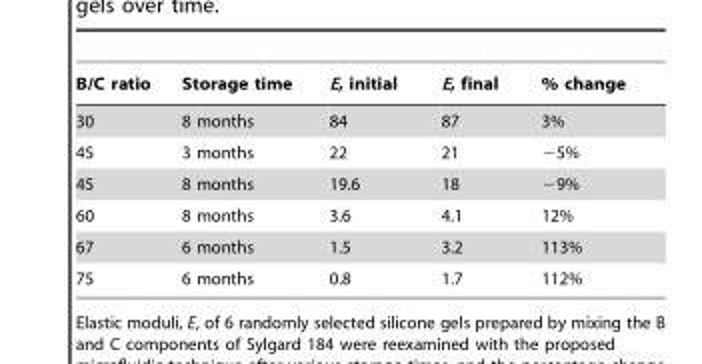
<table><thead><tr><td>B/C ratio</td><td>Storage time</td><td>E, initial</td><td>E, final</td><td>% change</td></tr></thead><tbody><tr><td>30</td><td>8 months</td><td>84</td><td>87</td><td>3%</td></tr><tr><td>45</td><td>3 months</td><td>22</td><td>21</td><td>−5%</td></tr><tr><td>45</td><td>8 months</td><td>19.6</td><td>18</td><td>−9%</td></tr><tr><td>60</td><td>8 months</td><td>3.6</td><td>4.1</td><td>12%</td></tr><tr><td>67</td><td>6 months</td><td>1.5</td><td>3.2</td><td>113%</td></tr><tr><td>75</td><td>6 months</td><td>0.8</td><td>1.7</td><td>112%</td></tr></tbody></table>